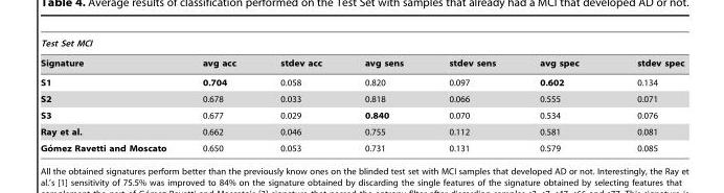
<table><thead><tr><td colspan="7">Test Set MCI</td></tr><tr><td>Signature</td><td>avg acc</td><td>stdev acc</td><td>avg sens</td><td>stdev sens</td><td>avg spec</td><td>stdev spec</td></tr></thead><tbody><tr><td>S1</td><td>0.704</td><td>0.058</td><td>0.820</td><td>0.097</td><td>0.602</td><td>0.134</td></tr><tr><td>S2</td><td>0.678</td><td>0.033</td><td>0.818</td><td>0.066</td><td>0.555</td><td>0.071</td></tr><tr><td>S3</td><td>0.677</td><td>0.029</td><td>0.840</td><td>0.070</td><td>0.534</td><td>0.076</td></tr><tr><td>Ray et al.</td><td>0.662</td><td>0.046</td><td>0.755</td><td>0.112</td><td>0.581</td><td>0.081</td></tr><tr><td>Go´ mez Ravetti and Moscato</td><td>0.650</td><td>0.053</td><td>0.731</td><td>0.131</td><td>0.579</td><td>0.085</td></tr></tbody></table>